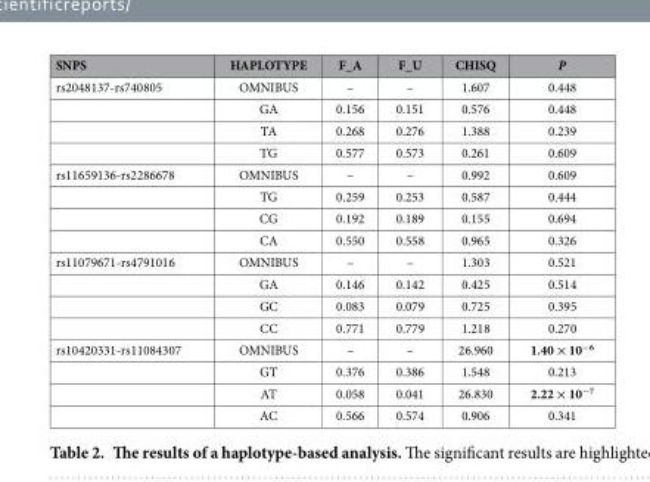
<table><thead><tr><td>SNPS</td><td>HAPLOTYPE</td><td>F_A</td><td>F_U</td><td>CHISQ</td><td>P</td></tr></thead><tbody><tr><td rowspan="4">rs2048137-rs740805</td><td>OMNIBUS</td><td>–</td><td>–</td><td>1.607</td><td>0.448</td></tr><tr><td>GA</td><td>0.156</td><td>0.151</td><td>0.576</td><td>0.448</td></tr><tr><td>TA</td><td>0.268</td><td>0.276</td><td>1.388</td><td>0.239</td></tr><tr><td>TG</td><td>0.577</td><td>0.573</td><td>0.261</td><td>0.609</td></tr><tr><td rowspan="4">rs11659136-rs2286678</td><td>OMNIBUS</td><td>–</td><td>–</td><td>0.992</td><td>0.609</td></tr><tr><td>TG</td><td>0.259</td><td>0.253</td><td>0.587</td><td>0.444</td></tr><tr><td>CG</td><td>0.192</td><td>0.189</td><td>0.155</td><td>0.694</td></tr><tr><td>CA</td><td>0.550</td><td>0.558</td><td>0.965</td><td>0.326</td></tr><tr><td rowspan="4">rs11079671-rs4791016</td><td>OMNIBUS</td><td>–</td><td>–</td><td>1.303</td><td>0.521</td></tr><tr><td>GA</td><td>0.146</td><td>0.142</td><td>0.425</td><td>0.514</td></tr><tr><td>GC</td><td>0.083</td><td>0.079</td><td>0.725</td><td>0.395</td></tr><tr><td>CC</td><td>0.771</td><td>0.779</td><td>1.218</td><td>0.270</td></tr><tr><td rowspan="4">rs10420331-rs11084307</td><td>OMNIBUS</td><td>–</td><td>–</td><td>26.960</td><td>1.40 × 10<sup>−6</sup></td></tr><tr><td>GT</td><td>0.376</td><td>0.386</td><td>1.548</td><td>0.213</td></tr><tr><td>AT</td><td>0.058</td><td>0.041</td><td>26.830</td><td>2.22 × 10<sup>−7</sup></td></tr><tr><td>AC</td><td>0.566</td><td>0.574</td><td>0.906</td><td>0.341</td></tr></tbody></table>